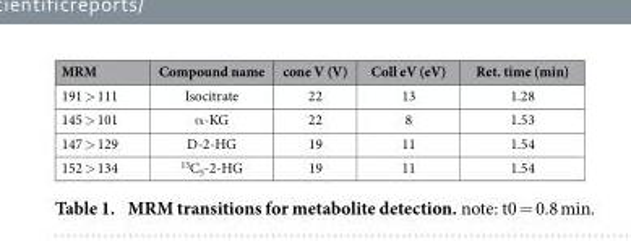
<table><thead><tr><td>MRM</td><td>Compound name</td><td>cone V (V)</td><td>Coll eV (eV)</td><td>Ret. time (min)</td></tr></thead><tbody><tr><td>191 &gt; 111</td><td>Isocitrate</td><td>22</td><td>13</td><td>1.28</td></tr><tr><td>145 &gt; 101</td><td>α -KG</td><td>22</td><td>8</td><td>1.53</td></tr><tr><td>147 &gt; 129</td><td>D-2-HG</td><td>19</td><td>11</td><td>1.54</td></tr><tr><td>152 &gt; 134</td><td><sup>13</sup>C<sub>5</sub>-2-HG</td><td>19</td><td>11</td><td>1.54</td></tr></tbody></table>